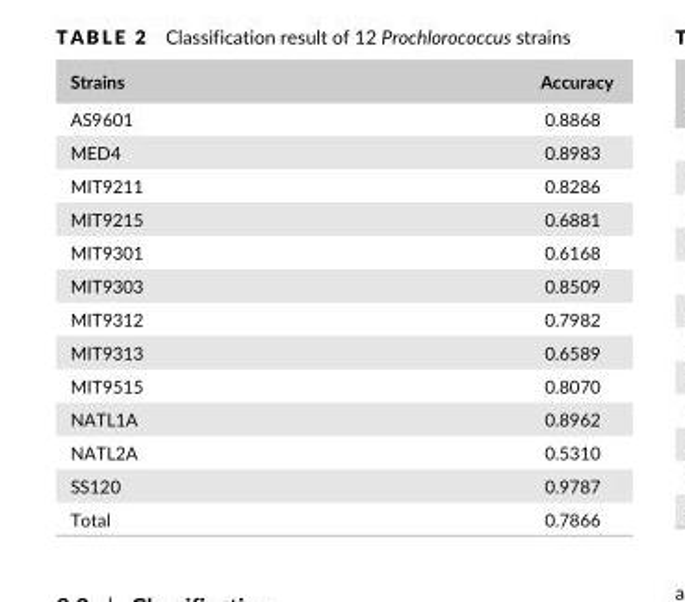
<table><thead><tr><td>Strains</td><td>Accuracy</td></tr></thead><tbody><tr><td>AS9601</td><td>0.8868</td></tr><tr><td>MED4</td><td>0.8983</td></tr><tr><td>MIT9211</td><td>0.8286</td></tr><tr><td>MIT9215</td><td>0.6881</td></tr><tr><td>MIT9301</td><td>0.6168</td></tr><tr><td>MIT9303</td><td>0.8509</td></tr><tr><td>MIT9312</td><td>0.7982</td></tr><tr><td>MIT9313</td><td>0.6589</td></tr><tr><td>MIT9515</td><td>0.8070</td></tr><tr><td>NATL1A</td><td>0.8962</td></tr><tr><td>NATL2A</td><td>0.5310</td></tr><tr><td>SS120</td><td>0.9787</td></tr><tr><td>Total</td><td>0.7866</td></tr></tbody></table>